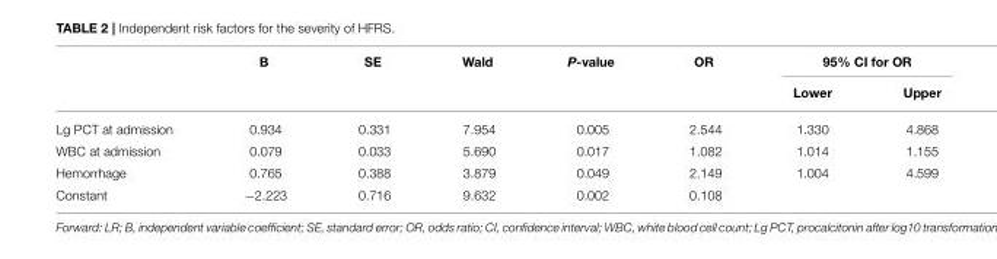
<table><thead><tr><td rowspan="2"></td><td rowspan="2">B</td><td rowspan="2">SE</td><td rowspan="2">Wald</td><td rowspan="2">P-value</td><td rowspan="2">OR</td><td colspan="2">95% CI for OR</td></tr><tr><td>Lower</td><td>Upper</td></tr></thead><tbody><tr><td>Lg PCT at admission</td><td>0.934</td><td>0.331</td><td>7.954</td><td>0.005</td><td>2.544</td><td>1.330</td><td>4.868</td></tr><tr><td>WBC at admission</td><td>0.079</td><td>0.033</td><td>5.690</td><td>0.017</td><td>1.082</td><td>1.014</td><td>1.155</td></tr><tr><td>Hemorrhage</td><td>0.765</td><td>0.388</td><td>3.879</td><td>0.049</td><td>2.149</td><td>1.004</td><td>4.599</td></tr><tr><td>Constant</td><td>−2.223</td><td>0.716</td><td>9.632</td><td>0.002</td><td>0.108</td><td></td><td></td></tr></tbody></table>